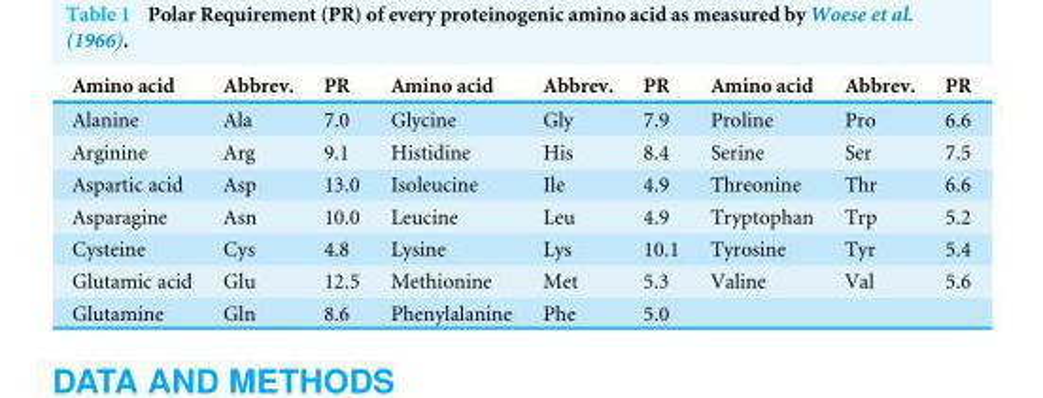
<table><thead><tr><td>Amino acid</td><td>Abbrev.</td><td>PR</td><td>Amino acid</td><td>Abbrev.</td><td>PR</td><td>Amino acid</td><td>Abbrev.</td><td>PR</td></tr></thead><tbody><tr><td>Alanine</td><td>Ala</td><td>7.0</td><td>Glycine</td><td>Gly</td><td>7.9</td><td>Proline</td><td>Pro</td><td>6.6</td></tr><tr><td>Arginine</td><td>Arg</td><td>9.1</td><td>Histidine</td><td>His</td><td>8.4</td><td>Serine</td><td>Ser</td><td>7.5</td></tr><tr><td>Aspartic acid</td><td>Asp</td><td>13.0</td><td>Isoleucine</td><td>Ile</td><td>4.9</td><td>Threonine</td><td>Thr</td><td>6.6</td></tr><tr><td>Asparagine</td><td>Asn</td><td>10.0</td><td>Leucine</td><td>Leu</td><td>4.9</td><td>Tryptophan</td><td>Trp</td><td>5.2</td></tr><tr><td>Cysteine</td><td>Cys</td><td>4.8</td><td>Lysine</td><td>Lys</td><td>10.1</td><td>Tyrosine</td><td>Tyr</td><td>5.4</td></tr><tr><td>Glutamic acid</td><td>Glu</td><td>12.5</td><td>Methionine</td><td>Met</td><td>5.3</td><td>Valine</td><td>Val</td><td>5.6</td></tr><tr><td>Glutamine</td><td>Gln</td><td>8.6</td><td>Phenylalanine</td><td>Phe</td><td>5.0</td><td></td><td></td><td></td></tr></tbody></table>